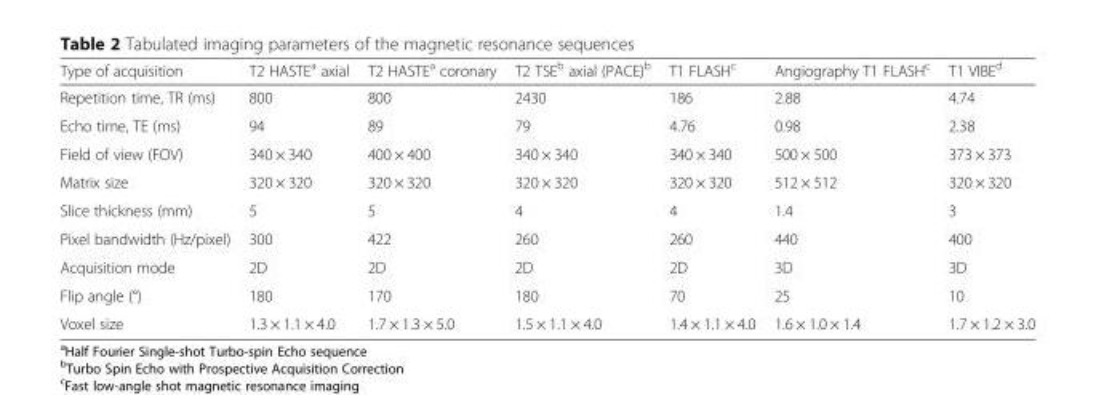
<table><thead><tr><td>Type of acquisition</td><td>T2 HASTE<sup>a</sup> axial</td><td>T2 HASTE<sup>a</sup> coronary</td><td>T2 TSE<sup>b</sup> axial (PACE)<sup>b</sup></td><td>T1 FLASH<sup>c</sup></td><td>Angiography T1 FLASH<sup>c</sup></td><td>T1 VIBE<sup>d</sup></td></tr></thead><tbody><tr><td>Repetition time, TR (ms)</td><td>800</td><td>800</td><td>2430</td><td>186</td><td>2.88</td><td>4.74</td></tr><tr><td>Echo time, TE (ms)</td><td>94</td><td>89</td><td>79</td><td>4.76</td><td>0.98</td><td>2.38</td></tr><tr><td>Field of view (FOV)</td><td>340 × 340</td><td>400 × 400</td><td>340 × 340</td><td>340 × 340</td><td>500 × 500</td><td>373 × 373</td></tr><tr><td>Matrix size</td><td>320 × 320</td><td>320 × 320</td><td>320 × 320</td><td>320 × 320</td><td>512 × 512</td><td>320 × 320</td></tr><tr><td>Slice thickness (mm)</td><td>5</td><td>5</td><td>4</td><td>4</td><td>1.4</td><td>3</td></tr><tr><td>Pixel bandwidth (Hz/pixel)</td><td>300</td><td>422</td><td>260</td><td>260</td><td>440</td><td>400</td></tr><tr><td>Acquisition mode</td><td>2D</td><td>2D</td><td>2D</td><td>2D</td><td>3D</td><td>3D</td></tr><tr><td>Flip angle (°)</td><td>180</td><td>170</td><td>180</td><td>70</td><td>25</td><td>10</td></tr><tr><td>Voxel size</td><td>1.3 × 1.1 × 4.0</td><td>1.7 × 1.3 × 5.0</td><td>1.5 × 1.1 × 4.0</td><td>1.4 × 1.1 × 4.0</td><td>1.6 × 1.0 × 1.4</td><td>1.7 × 1.2 × 3.0</td></tr></tbody></table>